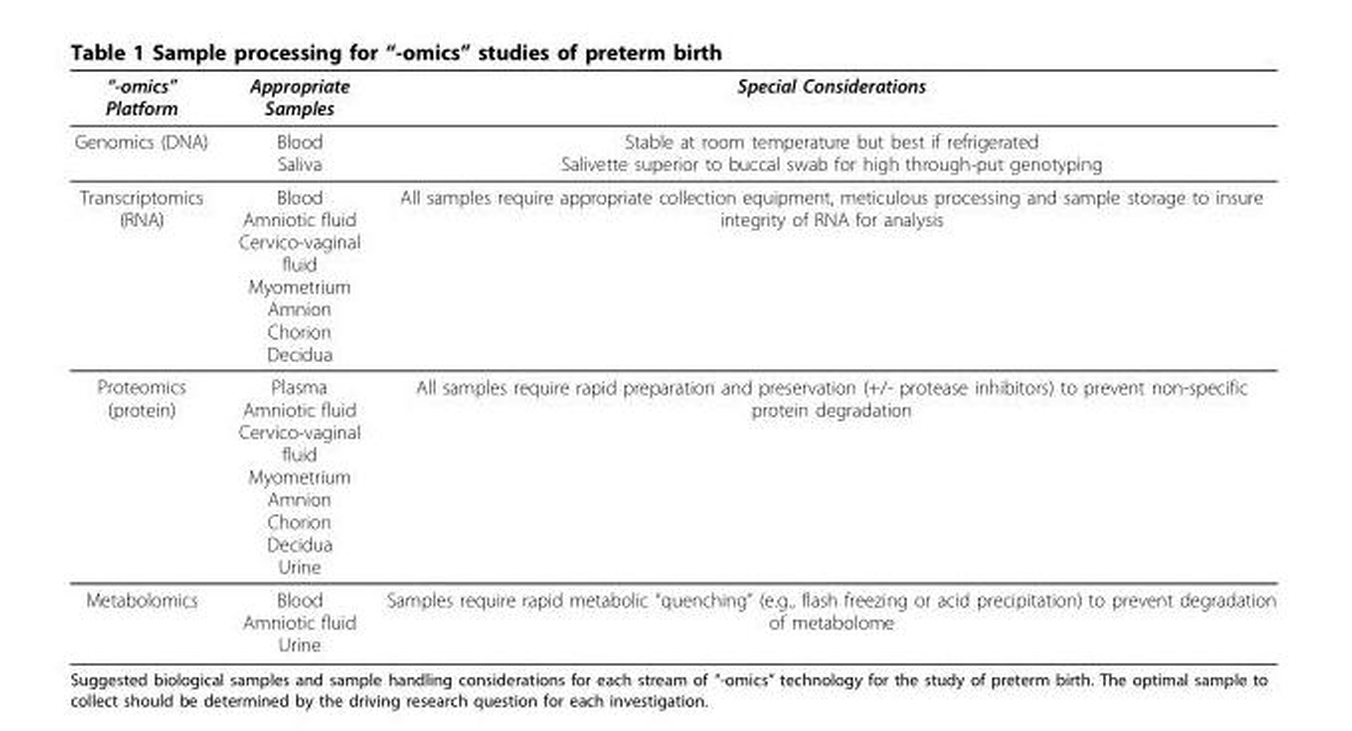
<table><thead><tr><td>“-omics” Platform</td><td>Appropriate Samples</td><td>Special Considerations</td></tr></thead><tbody><tr><td>Genomics (DNA)</td><td>Blood Saliva</td><td>Stable at room temperature but best if refrigerated Salivette superior to buccal swab for high through-put genotyping</td></tr><tr><td>Transcriptomics (RNA)</td><td>Blood Amniotic fluid Cervico-vaginal fluid Myometrium Amnion Chorion Decidua</td><td>All samples require appropriate collection equipment, meticulous processing and sample storage to insure integrity of RNA for analysis</td></tr><tr><td>Proteomics (protein)</td><td>Plasma Amniotic fluid Cervico-vaginal fluid Myometrium Amnion Chorion Decidua Urine</td><td>All samples require rapid preparation and preservation (+/- protease inhibitors) to prevent non-specific protein degradation</td></tr><tr><td>Metabolomics</td><td>Blood Amniotic fluid Urine</td><td>Samples require rapid metabolic “quenching” (e.g., flash freezing or acid precipitation) to prevent degradation of metabolome</td></tr></tbody></table>